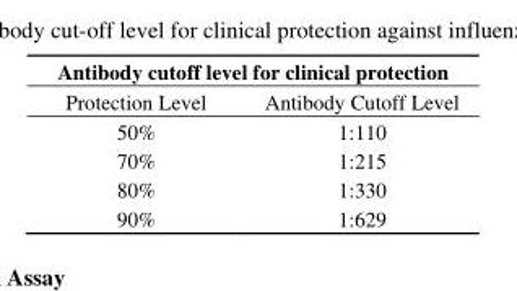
<table><thead><tr><td colspan="2">Antibody cutoff level for clinical protection</td></tr><tr><td>Protection Level</td><td>Antibody Cutoff Level</td></tr></thead><tbody><tr><td>50%</td><td>1:110</td></tr><tr><td>70%</td><td>1:215</td></tr><tr><td>80%</td><td>1:330</td></tr><tr><td>90%</td><td>1:629</td></tr></tbody></table>